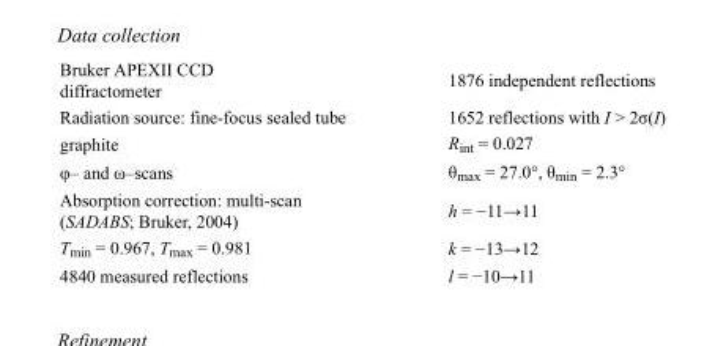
<table><tbody><tr><td>Bruker APEXII CCD diffractometer</td><td>1876 independent reflections</td></tr><tr><td>Radiation source: fine-focus sealed tube</td><td>1652 reflections with I &gt; 2σ(I)</td></tr><tr><td>graphite</td><td>R<sub>int</sub> = 0.027</td></tr><tr><td>φ– and ω–scans</td><td>θ<sub>max</sub> = 27.0°, θ<sub>min</sub> = 2.3°</td></tr><tr><td>Absorption correction: multi-scan (SADABS; Bruker, 2004)</td><td>h = −11→11</td></tr><tr><td>T<sub>min</sub> = 0.967, T<sub>max</sub> = 0.981</td><td>k = −13→12</td></tr><tr><td>4840 measured reflections</td><td>l = −10→11</td></tr></tbody></table>